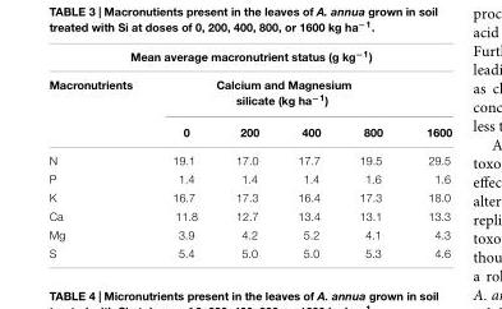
<table><thead><tr><td colspan="6">Mean average macronutrient status (g kg<sup>−1</sup>)</td></tr><tr><td rowspan="2">Macronutrients</td><td colspan="5">Calcium and Magnesium silicate (kg ha<sup>−1</sup>)</td></tr><tr><td>0</td><td>200</td><td>400</td><td>800</td><td>1600</td></tr></thead><tbody><tr><td>N</td><td>19.1</td><td>17.0</td><td>17.7</td><td>19.5</td><td>29.5</td></tr><tr><td>P</td><td>1.4</td><td>1.4</td><td>1.4</td><td>1.6</td><td>1.6</td></tr><tr><td>K</td><td>16.7</td><td>17.3</td><td>16.4</td><td>17.3</td><td>18.0</td></tr><tr><td>Ca</td><td>11.8</td><td>12.7</td><td>13.4</td><td>13.1</td><td>13.3</td></tr><tr><td>Mg</td><td>3.9</td><td>4.2</td><td>5.2</td><td>4.1</td><td>4.3</td></tr><tr><td>S</td><td>5.4</td><td>5.0</td><td>5.0</td><td>5.3</td><td>4.6</td></tr></tbody></table>